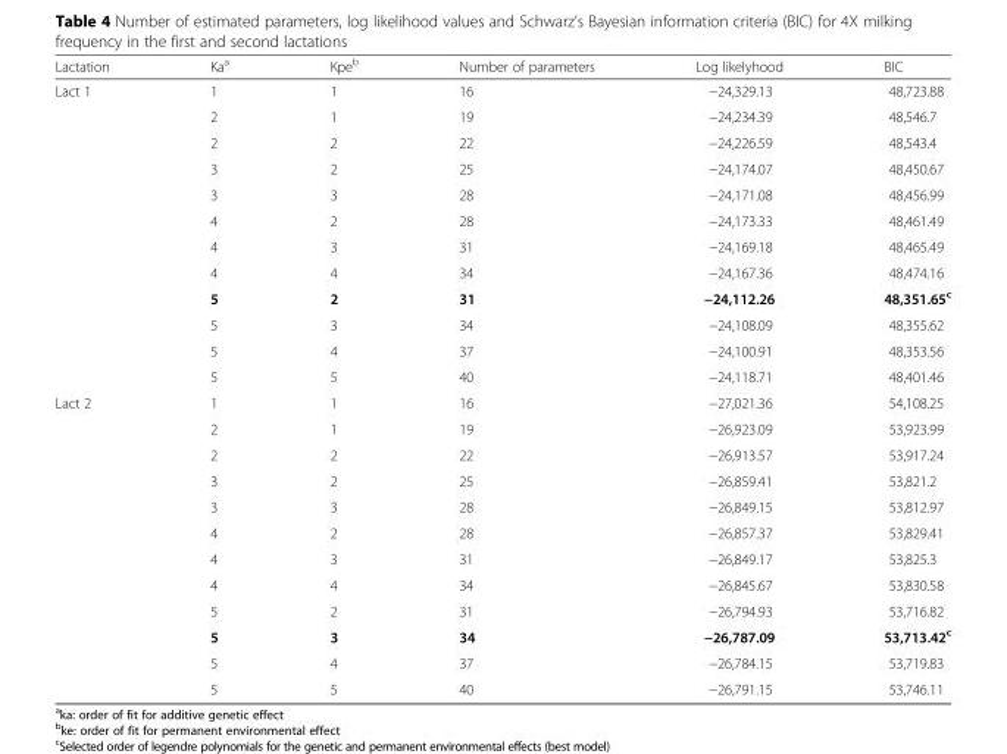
<table><thead><tr><td>Lactation</td><td>Ka<sup>a</sup></td><td>Kpe<sup>b</sup></td><td>Number of parameters</td><td>Log likelyhood</td><td>BIC</td></tr></thead><tbody><tr><td rowspan="12">Lact 1</td><td>1</td><td>1</td><td>16</td><td>−24,329.13</td><td>48,723.88</td></tr><tr><td>2</td><td>1</td><td>19</td><td>−24,234.39</td><td>48,546.7</td></tr><tr><td>2</td><td>2</td><td>22</td><td>−24,226.59</td><td>48,543.4</td></tr><tr><td>3</td><td>2</td><td>25</td><td>−24,174.07</td><td>48,450.67</td></tr><tr><td>3</td><td>3</td><td>28</td><td>−24,171.08</td><td>48,456.99</td></tr><tr><td>4</td><td>2</td><td>28</td><td>−24,173.33</td><td>48,461.49</td></tr><tr><td>4</td><td>3</td><td>31</td><td>−24,169.18</td><td>48,465.49</td></tr><tr><td>4</td><td>4</td><td>34</td><td>−24,167.36</td><td>48,474.16</td></tr><tr><td>5</td><td>2</td><td>31</td><td>−24,112.26</td><td>48,351.65<sup>c</sup></td></tr><tr><td>5</td><td>3</td><td>34</td><td>−24,108.09</td><td>48,355.62</td></tr><tr><td>5</td><td>4</td><td>37</td><td>−24,100.91</td><td>48,353.56</td></tr><tr><td>5</td><td>5</td><td>40</td><td>−24,118.71</td><td>48,401.46</td></tr><tr><td rowspan="12">Lact 2</td><td>1</td><td>1</td><td>16</td><td>−27,021.36</td><td>54,108.25</td></tr><tr><td>2</td><td>1</td><td>19</td><td>−26,923.09</td><td>53,923.99</td></tr><tr><td>2</td><td>2</td><td>22</td><td>−26,913.57</td><td>53,917.24</td></tr><tr><td>3</td><td>2</td><td>25</td><td>−26,859.41</td><td>53,821.2</td></tr><tr><td>3</td><td>3</td><td>28</td><td>−26,849.15</td><td>53,812.97</td></tr><tr><td>4</td><td>2</td><td>28</td><td>−26,857.37</td><td>53,829.41</td></tr><tr><td>4</td><td>3</td><td>31</td><td>−26,849.17</td><td>53,825.3</td></tr><tr><td>4</td><td>4</td><td>34</td><td>−26,845.67</td><td>53,830.58</td></tr><tr><td>5</td><td>2</td><td>31</td><td>−26,794.93</td><td>53,716.82</td></tr><tr><td>5</td><td>3</td><td>34</td><td>−26,787.09</td><td>53,713.42<sup>c</sup></td></tr><tr><td>5</td><td>4</td><td>37</td><td>−26,784.15</td><td>53,719.83</td></tr><tr><td>5</td><td>5</td><td>40</td><td>−26,791.15</td><td>53,746.11</td></tr></tbody></table>